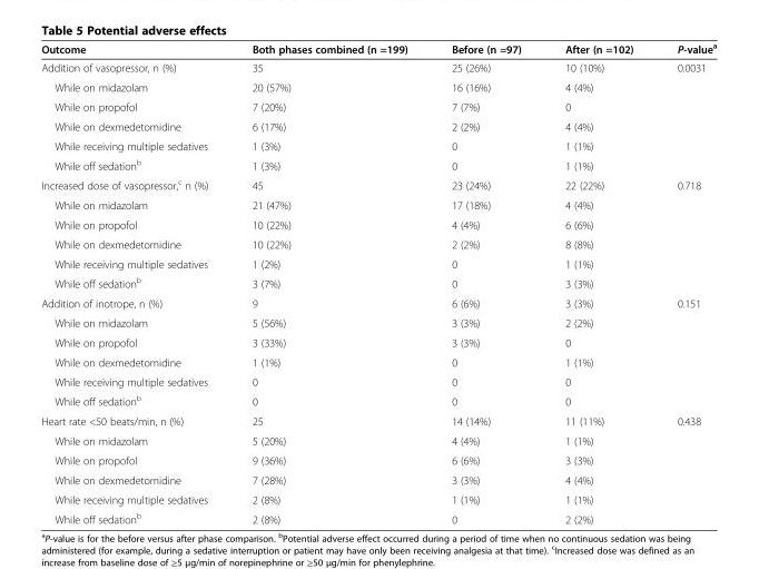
<table><thead><tr><td>Outcome</td><td>Both phases combined (n =199)</td><td>Before (n =97)</td><td>After (n =102)</td><td>P-value<sup>a</sup></td></tr></thead><tbody><tr><td>Addition of vasopressor, n (%)</td><td>35</td><td>25 (26%)</td><td>10 (10%)</td><td>0.0031</td></tr><tr><td>While on midazolam</td><td>20 (57%)</td><td>16 (16%)</td><td>4 (4%)</td><td></td></tr><tr><td>While on propofol</td><td>7 (20%)</td><td>7 (7%)</td><td>0</td><td></td></tr><tr><td>While on dexmedetomidine</td><td>6 (17%)</td><td>2 (2%)</td><td>4 (4%)</td><td></td></tr><tr><td>While receiving multiple sedatives</td><td>1 (3%)</td><td>0</td><td>1 (1%)</td><td></td></tr><tr><td>While off sedation<sup>b</sup></td><td>1 (3%)</td><td>0</td><td>1 (1%)</td><td></td></tr><tr><td>Increased dose of vasopressor,<sup>c</sup> n (%)</td><td>45</td><td>23 (24%)</td><td>22 (22%)</td><td>0.718</td></tr><tr><td>While on midazolam</td><td>21 (47%)</td><td>17 (18%)</td><td>4 (4%)</td><td></td></tr><tr><td>While on propofol</td><td>10 (22%)</td><td>4 (4%)</td><td>6 (6%)</td><td></td></tr><tr><td>While on dexmedetomidine</td><td>10 (22%)</td><td>2 (2%)</td><td>8 (8%)</td><td></td></tr><tr><td>While receiving multiple sedatives</td><td>1 (2%)</td><td>0</td><td>1 (1%)</td><td></td></tr><tr><td>While off sedation<sup>b</sup></td><td>3 (7%)</td><td>0</td><td>3 (3%)</td><td></td></tr><tr><td>Addition of inotrope, n (%)</td><td>9</td><td>6 (6%)</td><td>3 (3%)</td><td>0.151</td></tr><tr><td>While on midazolam</td><td>5 (56%)</td><td>3 (3%)</td><td>2 (2%)</td><td></td></tr><tr><td>While on propofol</td><td>3 (33%)</td><td>3 (3%)</td><td>0</td><td></td></tr><tr><td>While on dexmedetomidine</td><td>1 (1%)</td><td>0</td><td>1 (1%)</td><td></td></tr><tr><td>While receiving multiple sedatives</td><td>0</td><td>0</td><td>0</td><td></td></tr><tr><td>While off sedation<sup>b</sup></td><td>0</td><td>0</td><td>0</td><td></td></tr><tr><td>Heart rate &lt;50 beats/min, n (%)</td><td>25</td><td>14 (14%)</td><td>11 (11%)</td><td>0.438</td></tr><tr><td>While on midazolam</td><td>5 (20%)</td><td>4 (4%)</td><td>1 (1%)</td><td></td></tr><tr><td>While on propofol</td><td>9 (36%)</td><td>6 (6%)</td><td>3 (3%)</td><td></td></tr><tr><td>While on dexmedetomidine</td><td>7 (28%)</td><td>3 (3%)</td><td>4 (4%)</td><td></td></tr><tr><td>While receiving multiple sedatives</td><td>2 (8%)</td><td>1 (1%)</td><td>1 (1%)</td><td></td></tr><tr><td>While off sedation<sup>b</sup></td><td>2 (8%)</td><td>0</td><td>2 (2%)</td><td></td></tr></tbody></table>